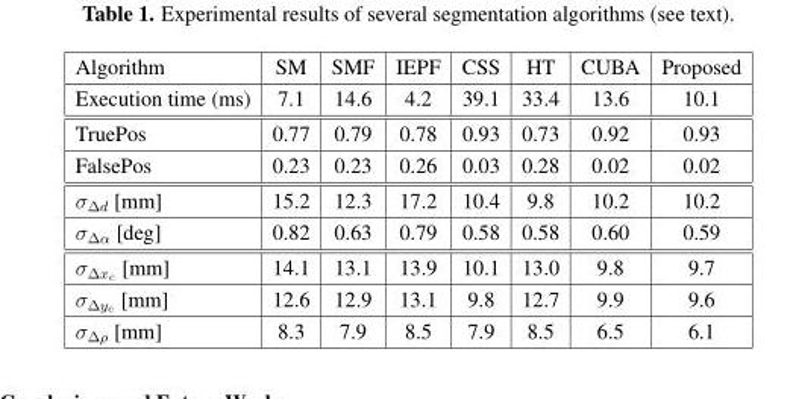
<table><thead><tr><td>Algorithm</td><td>SM</td><td>SMF</td><td>IEPF</td><td>CSS</td><td>HT</td><td>CUBA</td><td>Proposed</td></tr></thead><tbody><tr><td>Execution time (ms)</td><td>7.1</td><td>14.6</td><td>4.2</td><td>39.1</td><td>33.4</td><td>13.6</td><td>10.1</td></tr><tr><td>TruePos</td><td>0.77</td><td>0.79</td><td>0.78</td><td>0.93</td><td>0.73</td><td>0.92</td><td>0.93</td></tr><tr><td>FalsePos</td><td>0.23</td><td>0.23</td><td>0.26</td><td>0.03</td><td>0.28</td><td>0.02</td><td>0.02</td></tr><tr><td>σ∆d [mm]</td><td>15.2</td><td>12.3</td><td>17.2</td><td>10.4</td><td>9.8</td><td>10.2</td><td>10.2</td></tr><tr><td>σ∆α [deg]</td><td>0.82</td><td>0.63</td><td>0.79</td><td>0.58</td><td>0.58</td><td>0.60</td><td>0.59</td></tr><tr><td>σ∆xc [mm]</td><td>14.1</td><td>13.1</td><td>13.9</td><td>10.1</td><td>13.0</td><td>9.8</td><td>9.7</td></tr><tr><td>σ∆yc [mm]</td><td>12.6</td><td>12.9</td><td>13.1</td><td>9.8</td><td>12.7</td><td>9.9</td><td>9.6</td></tr><tr><td>σ∆ρ [mm]</td><td>8.3</td><td>7.9</td><td>8.5</td><td>7.9</td><td>8.5</td><td>6.5</td><td>6.1</td></tr></tbody></table>